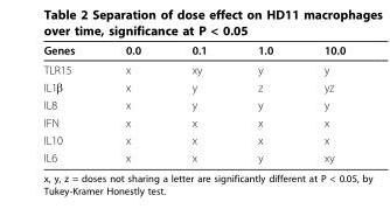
<table><thead><tr><td>Genes</td><td>0.0</td><td>0.1</td><td>1.0</td><td>10.0</td></tr></thead><tbody><tr><td>TLR15</td><td>x</td><td>xy</td><td>y</td><td>y</td></tr><tr><td>IL1β</td><td>x</td><td>y</td><td>z</td><td>yz</td></tr><tr><td>IL8</td><td>x</td><td>y</td><td>y</td><td>y</td></tr><tr><td>IFN</td><td>x</td><td>x</td><td>x</td><td>x</td></tr><tr><td>IL10</td><td>x</td><td>x</td><td>x</td><td>x</td></tr><tr><td>IL6</td><td>x</td><td>x</td><td>y</td><td>xy</td></tr></tbody></table>